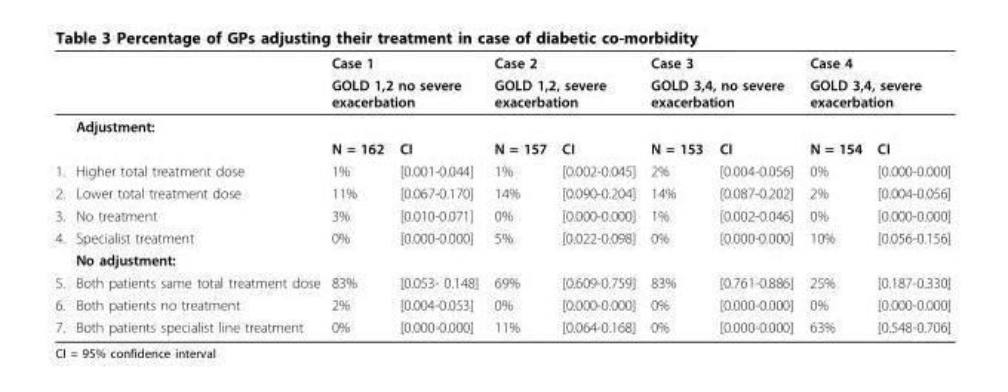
<table><thead><tr><td rowspan="3"></td><td rowspan="3">Adjustment:</td><td rowspan="2" colspan="2">Case 1 GOLD 1,2 no severe exacerbation</td><td rowspan="2" colspan="2">Case 2 GOLD 1,2, severe exacerbation</td><td rowspan="2" colspan="2">Case 3 GOLD 3,4, no severe exacerbation</td><td rowspan="2" colspan="2">Case 4 GOLD 3,4, severe exacerbation</td></tr><tr></tr><tr><td></td><td></td><td></td><td></td><td></td><td></td><td></td><td></td></tr></thead><tbody><tr><td></td><td></td><td>N = 162</td><td>CI</td><td>N = 157</td><td>CI</td><td>N = 153</td><td>CI</td><td>N = 154</td><td>CI</td></tr><tr><td>1.</td><td>Higher total treatment dose</td><td>1%</td><td>[0.001-0.044]</td><td>1%</td><td>[0.002-0.045]</td><td>2%</td><td>[0.004-0.056]</td><td>0%</td><td>[0.000-0.000]</td></tr><tr><td>2.</td><td>Lower total treatment dose</td><td>11%</td><td>[0.067-0.170]</td><td>14%</td><td>[0.090-0.204]</td><td>14%</td><td>[0.087-0.202]</td><td>2%</td><td>[0.004-0.056]</td></tr><tr><td>3.</td><td>No treatment</td><td>3%</td><td>[0.010-0.071]</td><td>0%</td><td>[0.000-0.000]</td><td>1%</td><td>[0.002-0.046]</td><td>0%</td><td>[0.000-0.000]</td></tr><tr><td rowspan="2">4.</td><td>Specialist treatment</td><td>0%</td><td>[0.000-0.000]</td><td>5%</td><td>[0.022-0.098]</td><td>0%</td><td>[0.000-0.000]</td><td>10%</td><td>[0.056-0.156]</td></tr><tr><td>No adjustment:</td><td></td><td></td><td></td><td></td><td></td><td></td><td></td><td></td></tr><tr><td>5.</td><td>Both patients same total treatment dose</td><td>83%</td><td>[0.053- 0.148]</td><td>69%</td><td>[0.609-0.759]</td><td>83%</td><td>[0.761-0.886]</td><td>25%</td><td>[0.187-0.330]</td></tr><tr><td>6.</td><td>Both patients no treatment</td><td>2%</td><td>[0.004-0.053]</td><td>0%</td><td>[0.000-0.000]</td><td>0%</td><td>[0.000-0.000]</td><td>0%</td><td>[0.000-0.000]</td></tr><tr><td>7.</td><td>Both patients specialist line treatment</td><td>0%</td><td>[0.000-0.000]</td><td>11%</td><td>[0.064-0.168]</td><td>0%</td><td>[0.000-0.000]</td><td>63%</td><td>[0.548-0.706]</td></tr></tbody></table>